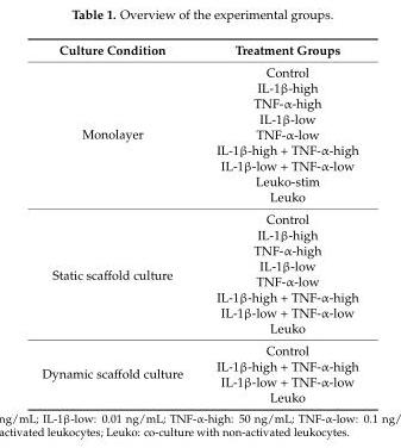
<table><thead><tr><td>Culture Condition</td><td>Treatment Groups</td></tr></thead><tbody><tr><td rowspan="9">Monolayer</td><td>Control</td></tr><tr><td>IL-1β-high</td></tr><tr><td>TNF-α-high</td></tr><tr><td>IL-1β-low</td></tr><tr><td>TNF-α-low</td></tr><tr><td>IL-1β-high + TNF-α-high</td></tr><tr><td>IL-1β-low + TNF-α-low</td></tr><tr><td>Leuko-stim</td></tr><tr><td>Leuko</td></tr><tr><td rowspan="8">Static scaffold culture</td><td>Control</td></tr><tr><td>IL-1β-high</td></tr><tr><td>TNF-α-high</td></tr><tr><td>IL-1β-low</td></tr><tr><td>TNF-α-low</td></tr><tr><td>IL-1β-high + TNF-α-high</td></tr><tr><td>IL-1β-low + TNF-α-low</td></tr><tr><td>Leuko</td></tr><tr><td rowspan="4">Dynamic scaffold culture</td><td>Control</td></tr><tr><td>IL-1β-high + TNF-α-high</td></tr><tr><td>IL-1β-low + TNF-α-low</td></tr><tr><td>Leuko</td></tr></tbody></table>